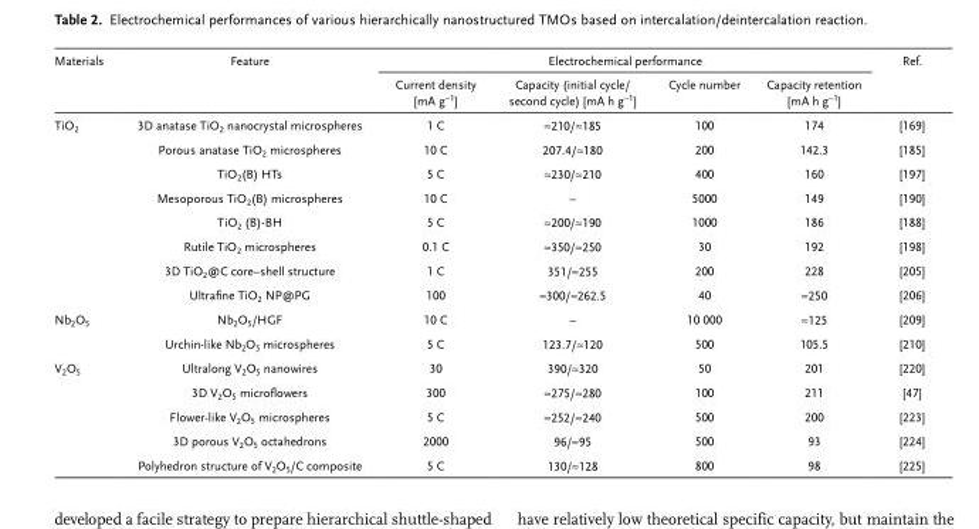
<table><thead><tr><td rowspan="2">Materials</td><td rowspan="2">Feature</td><td colspan="4">Electrochemical performance</td><td rowspan="2">Ref.</td></tr><tr><td>Current density [mA g<sup>−1</sup>]</td><td>Capacity (initial cycle/ second cycle) [mA h g<sup>−1</sup>]</td><td>Cycle number</td><td>Capacity retention [mA h g<sup>−1</sup>]</td></tr></thead><tbody><tr><td rowspan="8">TiO<sub>2</sub></td><td>3D anatase TiO<sub>2</sub> nanocrystal microspheres</td><td>1 C</td><td>≈210/≈185</td><td>100</td><td>174</td><td>[169]</td></tr><tr><td>Porous anatase TiO<sub>2</sub> microspheres</td><td>10 C</td><td>207.4/≈180</td><td>200</td><td>142.3</td><td>[185]</td></tr><tr><td>TiO<sub>2</sub>(B) HTs</td><td>5 C</td><td>≈230/≈210</td><td>400</td><td>160</td><td>[197]</td></tr><tr><td>Mesoporous TiO<sub>2</sub>(B) microspheres</td><td>10 C</td><td>–</td><td>5000</td><td>149</td><td>[190]</td></tr><tr><td>TiO<sub>2</sub> (B)-BH</td><td>5 C</td><td>≈200/≈190</td><td>1000</td><td>186</td><td>[188]</td></tr><tr><td>Rutile TiO<sub>2</sub> microspheres</td><td>0.1 C</td><td>≈350/≈250</td><td>30</td><td>192</td><td>[198]</td></tr><tr><td>3D TiO<sub>2</sub>@C core–shell structure</td><td>1 C</td><td>351/≈255</td><td>200</td><td>228</td><td>[205]</td></tr><tr><td>Ultrafine TiO<sub>2</sub> NP@PG</td><td>100</td><td>≈300/≈262.5</td><td>40</td><td>≈250</td><td>[206]</td></tr><tr><td rowspan="2">Nb<sub>2</sub>O<sub>5</sub></td><td>Nb<sub>2</sub>O<sub>5</sub>/HGF</td><td>10 C</td><td>–</td><td>10 000</td><td>≈125</td><td>[209]</td></tr><tr><td>Urchin-like Nb<sub>2</sub>O<sub>5</sub> microspheres</td><td>5 C</td><td>123.7/≈120</td><td>500</td><td>105.5</td><td>[210]</td></tr><tr><td rowspan="5">V<sub>2</sub>O<sub>5</sub></td><td>Ultralong V<sub>2</sub>O<sub>5</sub> nanowires</td><td>30</td><td>390/≈320</td><td>50</td><td>201</td><td>[220]</td></tr><tr><td>3D V<sub>2</sub>O<sub>5</sub> microflowers</td><td>300</td><td>≈275/≈280</td><td>100</td><td>211</td><td>[47]</td></tr><tr><td>Flower-like V<sub>2</sub>O<sub>5</sub> microspheres</td><td>5 C</td><td>≈252/≈240</td><td>500</td><td>200</td><td>[223]</td></tr><tr><td>3D porous V<sub>2</sub>O<sub>5</sub> octahedrons</td><td>2000</td><td>96/≈95</td><td>500</td><td>93</td><td>[224]</td></tr><tr><td>Polyhedron structure of V<sub>2</sub>O<sub>5</sub>/C composite</td><td>5 C</td><td>130/≈128</td><td>800</td><td>98</td><td>[225]</td></tr></tbody></table>